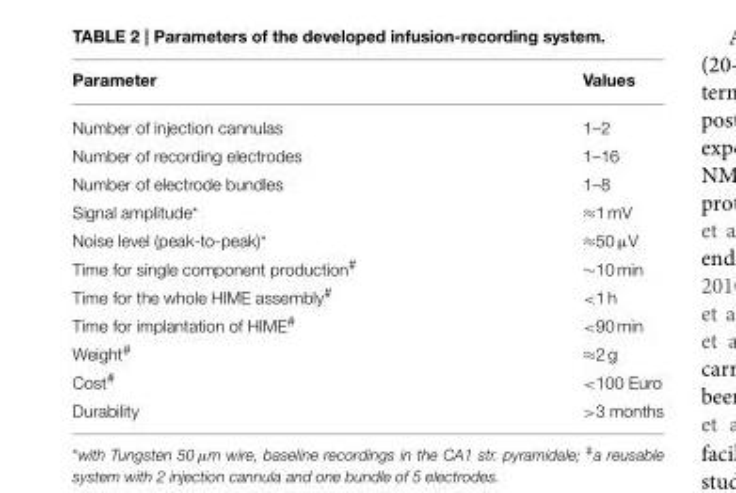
<table><thead><tr><td>Parameter</td><td>Values</td></tr></thead><tbody><tr><td>Number of injection cannulas</td><td>1–2</td></tr><tr><td>Number of recording electrodes</td><td>1–16</td></tr><tr><td>Number of electrode bundles</td><td>1–8</td></tr><tr><td>Signal amplitude*</td><td>≈1 mV</td></tr><tr><td>Noise level (peak-to-peak)*</td><td>≈50 µV</td></tr><tr><td>Time for single component production<sup>#</sup></td><td>∼10 min</td></tr><tr><td>Time for the whole HIME assembly<sup>#</sup></td><td>&lt;1 h</td></tr><tr><td>Time for implantation of HIME<sup>#</sup></td><td>&lt;90 min</td></tr><tr><td>Weight<sup>#</sup></td><td>≈2 g</td></tr><tr><td>Cost<sup>#</sup></td><td>&lt;100 Euro</td></tr><tr><td>Durability</td><td>&gt;3 months</td></tr></tbody></table>